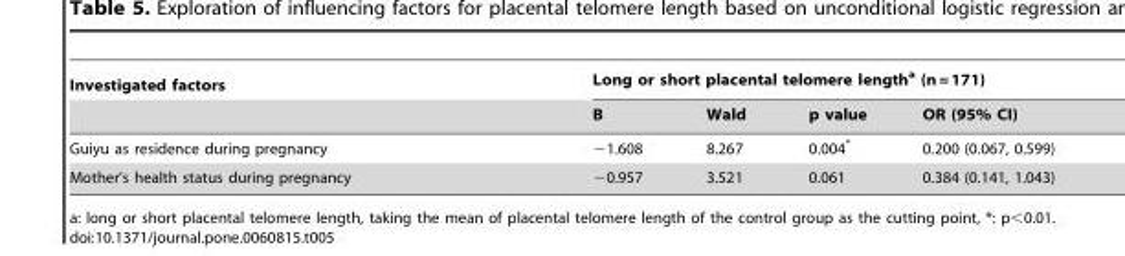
<table><thead><tr><td rowspan="2">Investigated factors</td><td colspan="4">Long or short placental telomere length<sup>a</sup> (n = 171)</td></tr><tr><td>B</td><td>Wald</td><td>p value</td><td>OR (95% CI)</td></tr></thead><tbody><tr><td>Guiyu as residence during pregnancy</td><td>−1.608</td><td>8.267</td><td>0.004*</td><td>0.200 (0.067, 0.599)</td></tr><tr><td>Mother’s health status during pregnancy</td><td>−0.957</td><td>3.521</td><td>0.061</td><td>0.384 (0.141, 1.043)</td></tr></tbody></table>